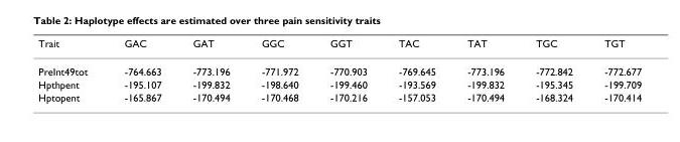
<table><thead><tr><td>Trait</td><td>GAC</td><td>GAT</td><td>GGC</td><td>GGT</td><td>TAC</td><td>TAT</td><td>TGC</td><td>TGT</td></tr></thead><tbody><tr><td>PreInt49tot</td><td>-764.663</td><td>-773.196</td><td>-771.972</td><td>-770.903</td><td>-769.645</td><td>-773.196</td><td>-772.842</td><td>-772.677</td></tr><tr><td>Hpthpent</td><td>-195.107</td><td>-199.832</td><td>-198.640</td><td>-199.460</td><td>-193.569</td><td>-199.832</td><td>-195.345</td><td>-199.709</td></tr><tr><td>Hptopent</td><td>-165.867</td><td>-170.494</td><td>-170.468</td><td>-170.216</td><td>-157.053</td><td>-170.494</td><td>-168.324</td><td>-170.414</td></tr></tbody></table>